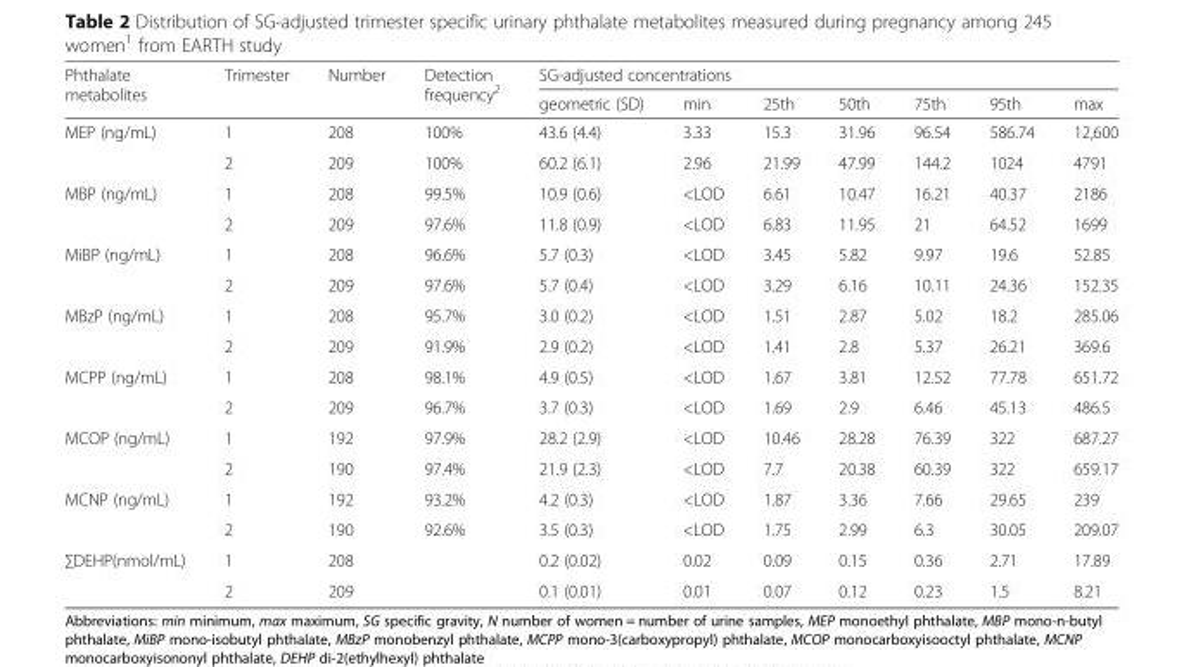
<table><thead><tr><td rowspan="2">Phthalate metabolites</td><td rowspan="2">Trimester</td><td rowspan="2">Number</td><td rowspan="2">Detection frequency<sup>2</sup></td><td colspan="7">SG-adjusted concentrations</td></tr><tr><td>geometric (SD)</td><td>min</td><td>25th</td><td>50th</td><td>75th</td><td>95th</td><td>max</td></tr></thead><tbody><tr><td rowspan="2">MEP (ng/mL)</td><td>1</td><td>208</td><td>100%</td><td>43.6 (4.4)</td><td>3.33</td><td>15.3</td><td>31.96</td><td>96.54</td><td>586.74</td><td>12,600</td></tr><tr><td>2</td><td>209</td><td>100%</td><td>60.2 (6.1)</td><td>2.96</td><td>21.99</td><td>47.99</td><td>144.2</td><td>1024</td><td>4791</td></tr><tr><td rowspan="2">MBP (ng/mL)</td><td>1</td><td>208</td><td>99.5%</td><td>10.9 (0.6)</td><td>&lt;LOD</td><td>6.61</td><td>10.47</td><td>16.21</td><td>40.37</td><td>2186</td></tr><tr><td>2</td><td>209</td><td>97.6%</td><td>11.8 (0.9)</td><td>&lt;LOD</td><td>6.83</td><td>11.95</td><td>21</td><td>64.52</td><td>1699</td></tr><tr><td rowspan="2">MiBP (ng/mL)</td><td>1</td><td>208</td><td>96.6%</td><td>5.7 (0.3)</td><td>&lt;LOD</td><td>3.45</td><td>5.82</td><td>9.97</td><td>19.6</td><td>52.85</td></tr><tr><td>2</td><td>209</td><td>97.6%</td><td>5.7 (0.4)</td><td>&lt;LOD</td><td>3.29</td><td>6.16</td><td>10.11</td><td>24.36</td><td>152.35</td></tr><tr><td rowspan="2">MBzP (ng/mL)</td><td>1</td><td>208</td><td>95.7%</td><td>3.0 (0.2)</td><td>&lt;LOD</td><td>1.51</td><td>2.87</td><td>5.02</td><td>18.2</td><td>285.06</td></tr><tr><td>2</td><td>209</td><td>91.9%</td><td>2.9 (0.2)</td><td>&lt;LOD</td><td>1.41</td><td>2.8</td><td>5.37</td><td>26.21</td><td>369.6</td></tr><tr><td rowspan="2">MCPP (ng/mL)</td><td>1</td><td>208</td><td>98.1%</td><td>4.9 (0.5)</td><td>&lt;LOD</td><td>1.67</td><td>3.81</td><td>12.52</td><td>77.78</td><td>651.72</td></tr><tr><td>2</td><td>209</td><td>96.7%</td><td>3.7 (0.3)</td><td>&lt;LOD</td><td>1.69</td><td>2.9</td><td>6.46</td><td>45.13</td><td>486.5</td></tr><tr><td rowspan="2">MCOP (ng/mL)</td><td>1</td><td>192</td><td>97.9%</td><td>28.2 (2.9)</td><td>&lt;LOD</td><td>10.46</td><td>28.28</td><td>76.39</td><td>322</td><td>687.27</td></tr><tr><td>2</td><td>190</td><td>97.4%</td><td>21.9 (2.3)</td><td>&lt;LOD</td><td>7.7</td><td>20.38</td><td>60.39</td><td>322</td><td>659.17</td></tr><tr><td rowspan="2">MCNP (ng/mL)</td><td>1</td><td>192</td><td>93.2%</td><td>4.2 (0.3)</td><td>&lt;LOD</td><td>1.87</td><td>3.36</td><td>7.66</td><td>29.65</td><td>239</td></tr><tr><td>2</td><td>190</td><td>92.6%</td><td>3.5 (0.3)</td><td>&lt;LOD</td><td>1.75</td><td>2.99</td><td>6.3</td><td>30.05</td><td>209.07</td></tr><tr><td rowspan="2">∑DEHP(nmol/mL)</td><td>1</td><td>208</td><td rowspan="2"></td><td>0.2 (0.02)</td><td>0.02</td><td>0.09</td><td>0.15</td><td>0.36</td><td>2.71</td><td>17.89</td></tr><tr><td>2</td><td>209</td><td>0.1 (0.01)</td><td>0.01</td><td>0.07</td><td>0.12</td><td>0.23</td><td>1.5</td><td>8.21</td></tr></tbody></table>